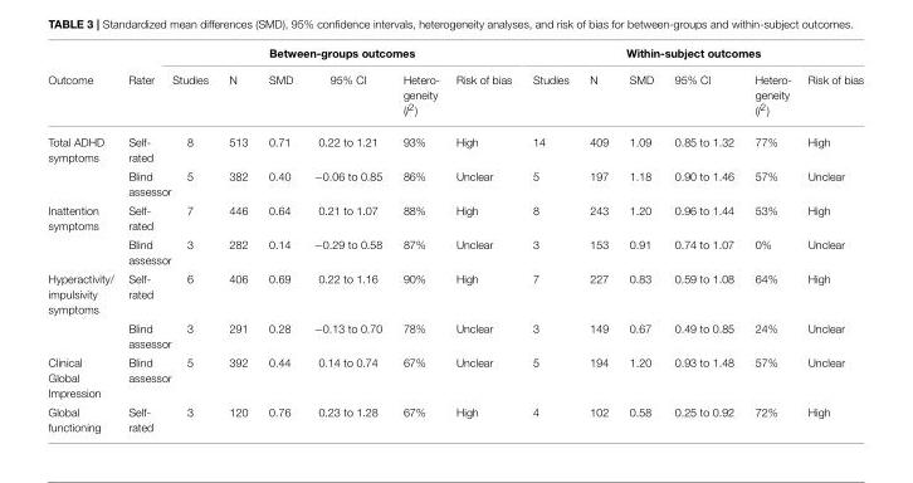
<table><thead><tr><td rowspan="2">Outcome</td><td rowspan="2">Rater</td><td colspan="6">Between-groups outcomes</td><td colspan="6">Within-subject outcomes</td></tr><tr><td>Studies</td><td>N</td><td>SMD</td><td>95% CI</td><td>Hetero- geneity (I<sup>2</sup>)</td><td>Risk of bias</td><td>Studies</td><td>N</td><td>SMD</td><td>95% CI</td><td>Hetero- geneity (I<sup>2</sup>)</td><td>Risk of bias</td></tr></thead><tbody><tr><td rowspan="2">Total ADHD symptoms</td><td>Self- rated</td><td>8</td><td>513</td><td>0.71</td><td>0.22 to 1.21</td><td>93%</td><td>High</td><td>14</td><td>409</td><td>1.09</td><td>0.85 to 1.32</td><td>77%</td><td>High</td></tr><tr><td>Blind assessor</td><td>5</td><td>382</td><td>0.40</td><td>−0.06 to 0.85</td><td>86%</td><td>Unclear</td><td>5</td><td>197</td><td>1.18</td><td>0.90 to 1.46</td><td>57%</td><td>Unclear</td></tr><tr><td rowspan="2">Inattention symptoms</td><td>Self- rated</td><td>7</td><td>446</td><td>0.64</td><td>0.21 to 1.07</td><td>88%</td><td>High</td><td>8</td><td>243</td><td>1.20</td><td>0.96 to 1.44</td><td>53%</td><td>High</td></tr><tr><td>Blind assessor</td><td>3</td><td>282</td><td>0.14</td><td>−0.29 to 0.58</td><td>87%</td><td>Unclear</td><td>3</td><td>153</td><td>0.91</td><td>0.74 to 1.07</td><td>0%</td><td>Unclear</td></tr><tr><td rowspan="2">Hyperactivity/ impulsivity symptoms</td><td>Self- rated</td><td>6</td><td>406</td><td>0.69</td><td>0.22 to 1.16</td><td>90%</td><td>High</td><td>7</td><td>227</td><td>0.83</td><td>0.59 to 1.08</td><td>64%</td><td>High</td></tr><tr><td>Blind assessor</td><td>3</td><td>291</td><td>0.28</td><td>−0.13 to 0.70</td><td>78%</td><td>Unclear</td><td>3</td><td>149</td><td>0.67</td><td>0.49 to 0.85</td><td>24%</td><td>Unclear</td></tr><tr><td>Clinical Global Impression</td><td>Blind assessor</td><td>5</td><td>392</td><td>0.44</td><td>0.14 to 0.74</td><td>67%</td><td>Unclear</td><td>5</td><td>194</td><td>1.20</td><td>0.93 to 1.48</td><td>57%</td><td>Unclear</td></tr><tr><td>Global functioning</td><td>Self- rated</td><td>3</td><td>120</td><td>0.76</td><td>0.23 to 1.28</td><td>67%</td><td>High</td><td>4</td><td>102</td><td>0.58</td><td>0.25 to 0.92</td><td>72%</td><td>High</td></tr></tbody></table>